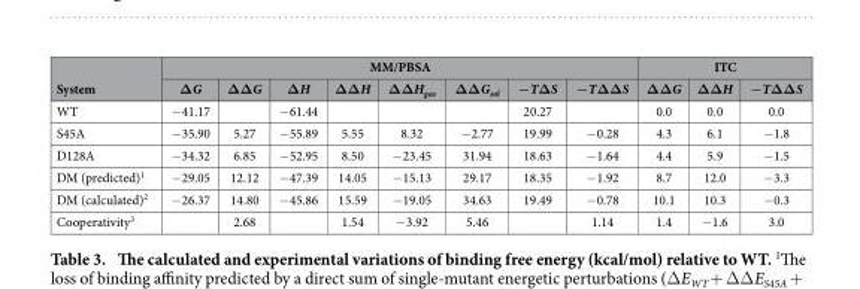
<table><thead><tr><td rowspan="2">System</td><td colspan="8">MM/PBSA</td><td colspan="3">ITC</td></tr><tr><td>ΔG</td><td>ΔΔG</td><td>ΔH</td><td>ΔΔH</td><td>ΔΔH<sub>gas</sub></td><td>ΔΔG<sub>sol</sub></td><td>−TΔS</td><td>−TΔΔS</td><td>ΔΔG</td><td>ΔΔH</td><td>−TΔΔS</td></tr></thead><tbody><tr><td>WT</td><td>− 41.17</td><td></td><td>− 61.44</td><td></td><td></td><td></td><td>20.27</td><td></td><td>0.0</td><td>0.0</td><td>0.0</td></tr><tr><td>S45A</td><td>− 35.90</td><td>5.27</td><td>− 55.89</td><td>5.55</td><td>8.32</td><td>− 2.77</td><td>19.99</td><td>− 0.28</td><td>4.3</td><td>6.1</td><td>− 1.8</td></tr><tr><td>D128A</td><td>− 34.32</td><td>6.85</td><td>− 52.95</td><td>8.50</td><td>− 23.45</td><td>31.94</td><td>18.63</td><td>− 1.64</td><td>4.4</td><td>5.9</td><td>− 1.5</td></tr><tr><td>DM (predicted)<sup>1</sup></td><td>− 29.05</td><td>12.12</td><td>− 47.39</td><td>14.05</td><td>− 15.13</td><td>29.17</td><td>18.35</td><td>− 1.92</td><td>8.7</td><td>12.0</td><td>− 3.3</td></tr><tr><td>DM (calculated)<sup>2</sup></td><td>− 26.37</td><td>14.80</td><td>− 45.86</td><td>15.59</td><td>− 19.05</td><td>34.63</td><td>19.49</td><td>− 0.78</td><td>10.1</td><td>10.3</td><td>− 0.3</td></tr><tr><td>Cooperativity<sup>3</sup></td><td></td><td>2.68</td><td></td><td>1.54</td><td>− 3.92</td><td>5.46</td><td></td><td>1.14</td><td>1.4</td><td>− 1.6</td><td>3.0</td></tr></tbody></table>